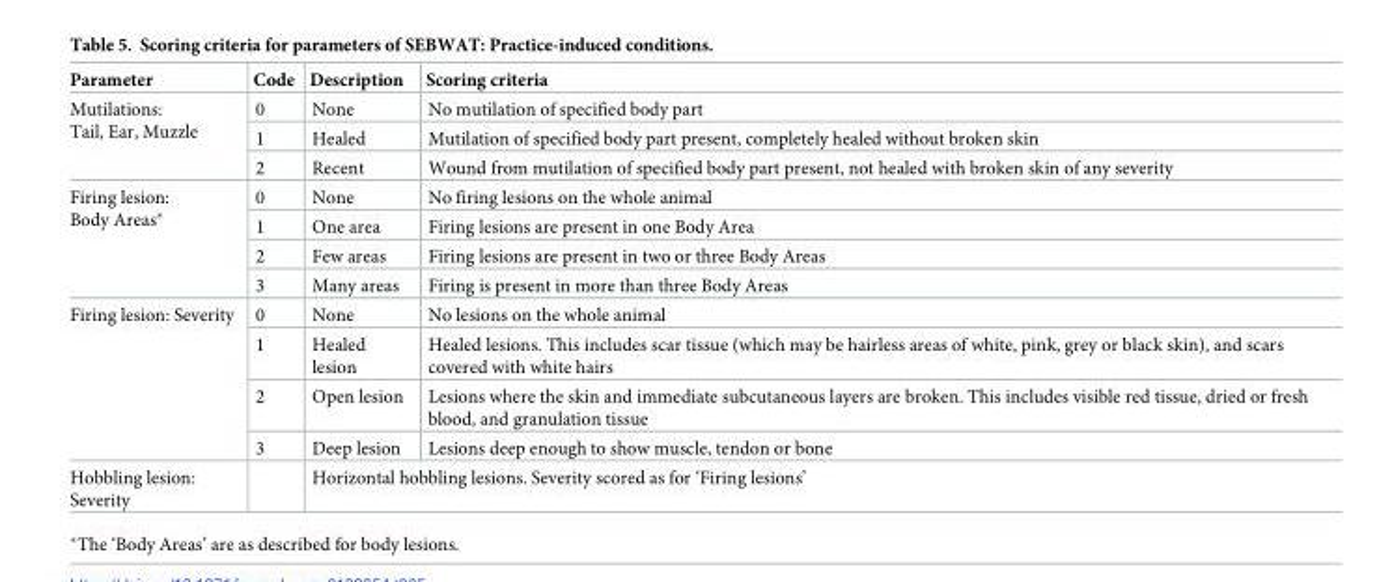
<table><thead><tr><td>Parameter</td><td>Code</td><td>Description</td><td>Scoring criteria</td></tr></thead><tbody><tr><td rowspan="3">Mutilations: Tail, Ear, Muzzle</td><td>0</td><td>None</td><td>No mutilation of specified body part</td></tr><tr><td>1</td><td>Healed</td><td>Mutilation of specified body part present, completely healed without broken skin</td></tr><tr><td>2</td><td>Recent</td><td>Wound from mutilation of specified body part present, not healed with broken skin of any severity</td></tr><tr><td rowspan="4">Firing lesion: Body Areas*</td><td>0</td><td>None</td><td>No firing lesions on the whole animal</td></tr><tr><td>1</td><td>One area</td><td>Firing lesions are present in one Body Area</td></tr><tr><td>2</td><td>Few areas</td><td>Firing lesions are present in two or three Body Areas</td></tr><tr><td>3</td><td>Many areas</td><td>Firing is present in more than three Body Areas</td></tr><tr><td rowspan="4">Firing lesion: Severity</td><td>0</td><td>None</td><td>No lesions on the whole animal</td></tr><tr><td>1</td><td>Healed lesion</td><td>Healed lesions. This includes scar tissue (which may be hairless areas of white, pink, grey or black skin), and scars covered with white hairs</td></tr><tr><td>2</td><td>Open lesion</td><td>Lesions where the skin and immediate subcutaneous layers are broken. This includes visible red tissue, dried or fresh blood, and granulation tissue</td></tr><tr><td>3</td><td>Deep lesion</td><td>Lesions deep enough to show muscle, tendon or bone</td></tr><tr><td>Hobbling lesion: Severity</td><td></td><td colspan="2">Horizontal hobbling lesions. Severity scored as for ‘Firing lesions’</td></tr></tbody></table>